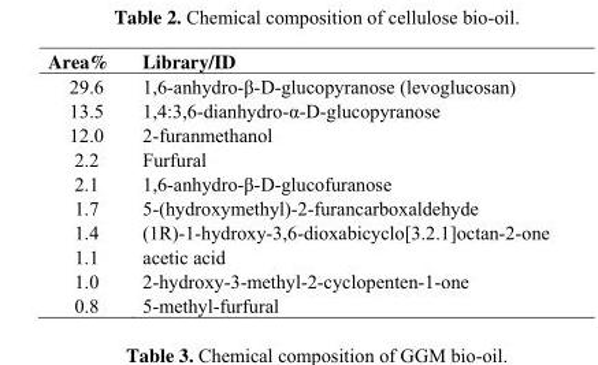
<table><thead><tr><td>Area%</td><td>Library/ID</td></tr></thead><tbody><tr><td>29.6</td><td>1,6-anhydro-β-D-glucopyranose (levoglucosan)</td></tr><tr><td>13.5</td><td>1,4:3,6-dianhydro-α-D-glucopyranose</td></tr><tr><td>12.0</td><td>2-furanmethanol</td></tr><tr><td>2.2</td><td>Furfural</td></tr><tr><td>2.1</td><td>1,6-anhydro-β-D-glucofuranose</td></tr><tr><td>1.7</td><td>5-(hydroxymethyl)-2-furancarboxaldehyde</td></tr><tr><td>1.4</td><td>(1R)-1-hydroxy-3,6-dioxabicyclo[3.2.1]octan-2-one</td></tr><tr><td>1.1</td><td>acetic acid</td></tr><tr><td>1.0</td><td>2-hydroxy-3-methyl-2-cyclopenten-1-one</td></tr><tr><td>0.8</td><td>5-methyl-furfural</td></tr></tbody></table>